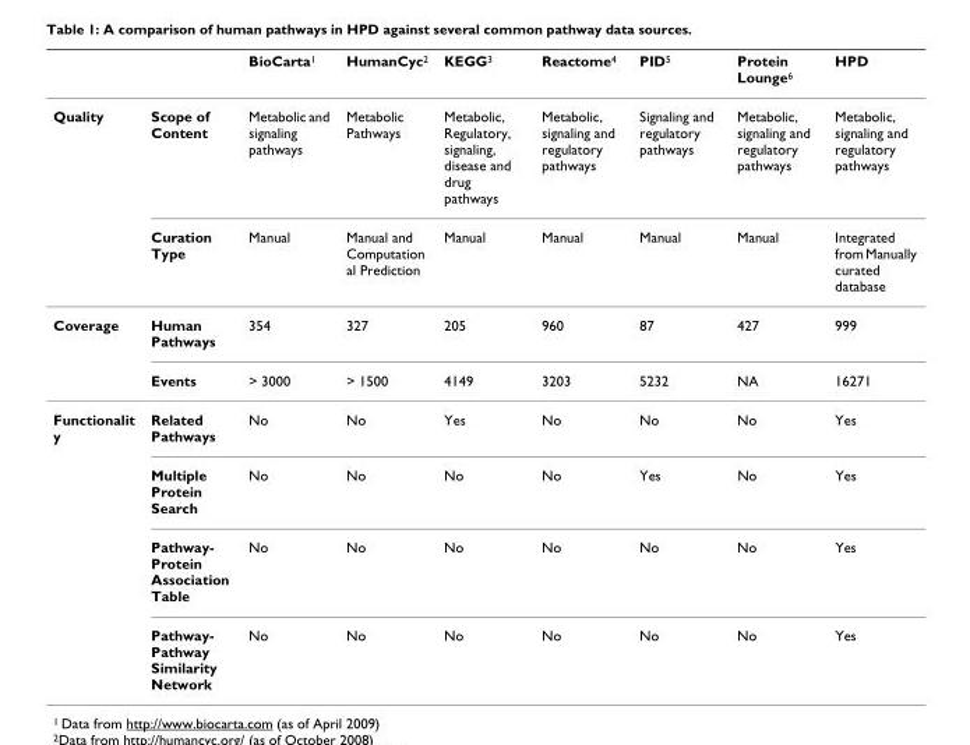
<table><thead><tr><td></td><td></td><td>BioCarta<sup>1</sup></td><td>HumanCyc<sup>2</sup></td><td>KEGG<sup>3</sup></td><td>Reactome<sup>4</sup></td><td>PID<sup>5</sup></td><td>Protein Lounge<sup>6</sup></td><td>HPD</td></tr></thead><tbody><tr><td rowspan="2">Quality</td><td>Scope of Content</td><td>Metabolic and signaling pathways</td><td>Metabolic Pathways</td><td>Metabolic, Regulatory, signaling, disease and drug pathways</td><td>Metabolic, signaling and regulatory pathways</td><td>Signaling and regulatory pathways</td><td>Metabolic, signaling and regulatory pathways</td><td>Metabolic, signaling and regulatory pathways</td></tr><tr><td>Curation Type</td><td>Manual</td><td>Manual and Computation al Prediction</td><td>Manual</td><td>Manual</td><td>Manual</td><td>Manual</td><td>Integrated from Manually curated database</td></tr><tr><td rowspan="2">Coverage</td><td>Human Pathways</td><td>354</td><td>327</td><td>205</td><td>960</td><td>87</td><td>427</td><td>999</td></tr><tr><td>Events</td><td>&gt; 3000</td><td>&gt; 1500</td><td>4149</td><td>3203</td><td>5232</td><td>NA</td><td>16271</td></tr><tr><td rowspan="4">Functionalit y</td><td>Related Pathways</td><td>No</td><td>No</td><td>Yes</td><td>No</td><td>No</td><td>No</td><td>Yes</td></tr><tr><td>Multiple Protein Search</td><td>No</td><td>No</td><td>No</td><td>No</td><td>Yes</td><td>No</td><td>Yes</td></tr><tr><td>Pathway- Protein Association Table</td><td>No</td><td>No</td><td>No</td><td>No</td><td>No</td><td>No</td><td>Yes</td></tr><tr><td>Pathway- Pathway Similarity Network</td><td>No</td><td>No</td><td>No</td><td>No</td><td>No</td><td>No</td><td>Yes</td></tr></tbody></table>